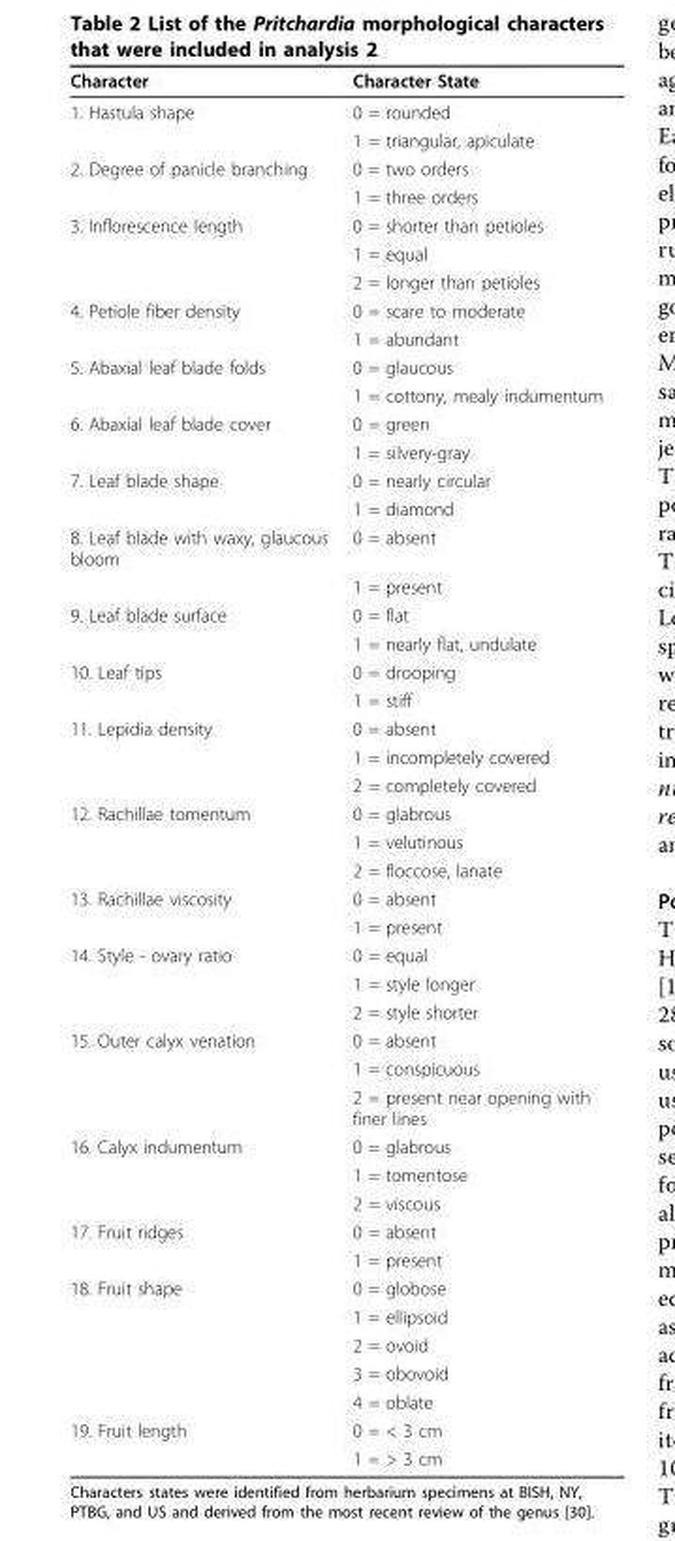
<table><thead><tr><td>Character</td><td>Character State</td></tr></thead><tbody><tr><td rowspan="2">1. Hastula shape</td><td>0 = rounded</td></tr><tr><td>1 = triangular, apiculate</td></tr><tr><td rowspan="2">2. Degree of panicle branching</td><td>0 = two orders</td></tr><tr><td>1 = three orders</td></tr><tr><td rowspan="3">3. Inflorescence length</td><td>0 = shorter than petioles</td></tr><tr><td>1 = equal</td></tr><tr><td>2 = longer than petioles</td></tr><tr><td rowspan="2">4. Petiole fiber density</td><td>0 = scare to moderate</td></tr><tr><td>1 = abundant</td></tr><tr><td rowspan="2">5. Abaxial leaf blade folds</td><td>0 = glaucous</td></tr><tr><td>1 = cottony, mealy indumentum</td></tr><tr><td rowspan="2">6. Abaxial leaf blade cover</td><td>0 = green</td></tr><tr><td>1 = silvery-gray</td></tr><tr><td rowspan="2">7. Leaf blade shape</td><td>0 = nearly circular</td></tr><tr><td>1 = diamond</td></tr><tr><td rowspan="2">8. Leaf blade with waxy, glaucous bloom</td><td>0 = absent</td></tr><tr><td>1 = present</td></tr><tr><td rowspan="2">9. Leaf blade surface</td><td>0 = flat</td></tr><tr><td>1 = nearly flat, undulate</td></tr><tr><td rowspan="2">10. Leaf tips</td><td>0 = drooping</td></tr><tr><td>1 = stiff</td></tr><tr><td rowspan="3">11. Lepidia density</td><td>0 = absent</td></tr><tr><td>1 = incompletely covered</td></tr><tr><td>2 = completely covered</td></tr><tr><td rowspan="3">12. Rachillae tomentum</td><td>0 = glabrous</td></tr><tr><td>1 = velutinous</td></tr><tr><td>2 = floccose, lanate</td></tr><tr><td rowspan="2">13. Rachillae viscosity</td><td>0 = absent</td></tr><tr><td>1 = present</td></tr><tr><td rowspan="3">14. Style - ovary ratio</td><td>0 = equal</td></tr><tr><td>1 = style longer</td></tr><tr><td>2 = style shorter</td></tr><tr><td rowspan="3">15. Outer calyx venation</td><td>0 = absent</td></tr><tr><td>1 = conspicuous</td></tr><tr><td>2 = present near opening with finer lines</td></tr><tr><td rowspan="3">16. Calyx indumentum</td><td>0 = glabrous</td></tr><tr><td>1 = tomentose</td></tr><tr><td>2 = viscous</td></tr><tr><td rowspan="2">17. Fruit ridges</td><td>0 = absent</td></tr><tr><td>1 = present</td></tr><tr><td rowspan="5">18. Fruit shape</td><td>0 = globose</td></tr><tr><td>1 = ellipsoid</td></tr><tr><td>2 = ovoid</td></tr><tr><td>3 = obovoid</td></tr><tr><td>4 = oblate</td></tr><tr><td rowspan="2">19. Fruit length</td><td>0 = &lt; 3 cm</td></tr><tr><td>1 = &gt; 3 cm</td></tr></tbody></table>